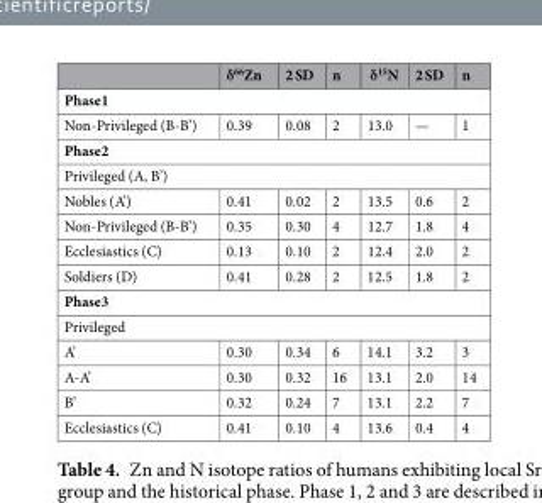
<table><thead><tr><td></td><td>δ<sup>66</sup>Zn</td><td>2 SD</td><td>n</td><td>δ<sup>15</sup>N</td><td>2 SD</td><td>n</td></tr></thead><tbody><tr><td colspan="7">Phase1</td></tr><tr><td>Non-Privileged (B-B’)</td><td>0.39</td><td>0.08</td><td>2</td><td>13.0</td><td>—</td><td>1</td></tr><tr><td colspan="7">Phase2</td></tr><tr><td colspan="7">Privileged (A, B’)</td></tr><tr><td>Nobles (A’)</td><td>0.41</td><td>0.02</td><td>2</td><td>13.5</td><td>0.6</td><td>2</td></tr><tr><td>Non-Privileged (B-B’)</td><td>0.35</td><td>0.30</td><td>4</td><td>12.7</td><td>1.8</td><td>4</td></tr><tr><td>Ecclesiastics (C)</td><td>0.13</td><td>0.10</td><td>2</td><td>12.4</td><td>2.0</td><td>2</td></tr><tr><td>Soldiers (D)</td><td>0.41</td><td>0.28</td><td>2</td><td>12.5</td><td>1.8</td><td>2</td></tr><tr><td colspan="7">Phase3</td></tr><tr><td colspan="7">Privileged</td></tr><tr><td>A’</td><td>0.30</td><td>0.34</td><td>6</td><td>14.1</td><td>3.2</td><td>3</td></tr><tr><td>A-A’</td><td>0.30</td><td>0.32</td><td>16</td><td>13.1</td><td>2.0</td><td>14</td></tr><tr><td>B’</td><td>0.32</td><td>0.24</td><td>7</td><td>13.1</td><td>2.2</td><td>7</td></tr><tr><td>Ecclesiastics (C)</td><td>0.41</td><td>0.10</td><td>4</td><td>13.6</td><td>0.4</td><td>4</td></tr></tbody></table>